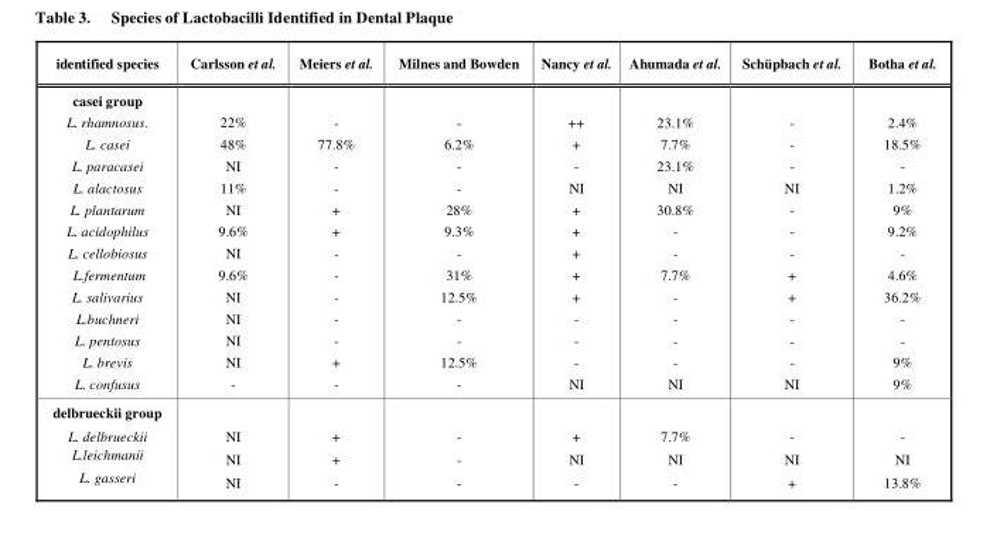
<table><thead><tr><td>identified species</td><td>Carlsson et al.</td><td>Meiers et al.</td><td>Milnes and Bowden</td><td>Nancy et al.</td><td>Ahumada et al.</td><td>Schüpbach et al.</td><td>Botha et al.</td></tr></thead><tbody><tr><td>casei group L. rhamnosus. L. casei L. paracasei L. alactosus L. plantarum L. acidophilus L. cellobiosus L.fermentum L. salivarius L.buchneri L. pentosus L. brevis L. confusus</td><td>22% 48% NI 11% NI 9.6% NI 9.6% NI NI NI NI -</td><td>- 77.8% - - + + - - - - - + -</td><td>- 6.2% - - 28% 9.3% - 31% 12.5% - - 12.5% -</td><td>++ + - NI + + + + + - - - NI</td><td>23.1% 7.7% 23.1% NI 30.8% - - 7.7% - - - - NI</td><td>- - - NI - - - + + - - - NI</td><td>2.4% 18.5% - 1.2% 9% 9.2% - 4.6% 36.2% - - 9% 9%</td></tr><tr><td>delbrueckii group L. delbrueckii L.leichmanii L. gasseri</td><td>NI NI NI</td><td>+ + -</td><td>- - -</td><td>+ NI -</td><td>7.7% NI -</td><td>- NI +</td><td>- NI 13.8%</td></tr></tbody></table>